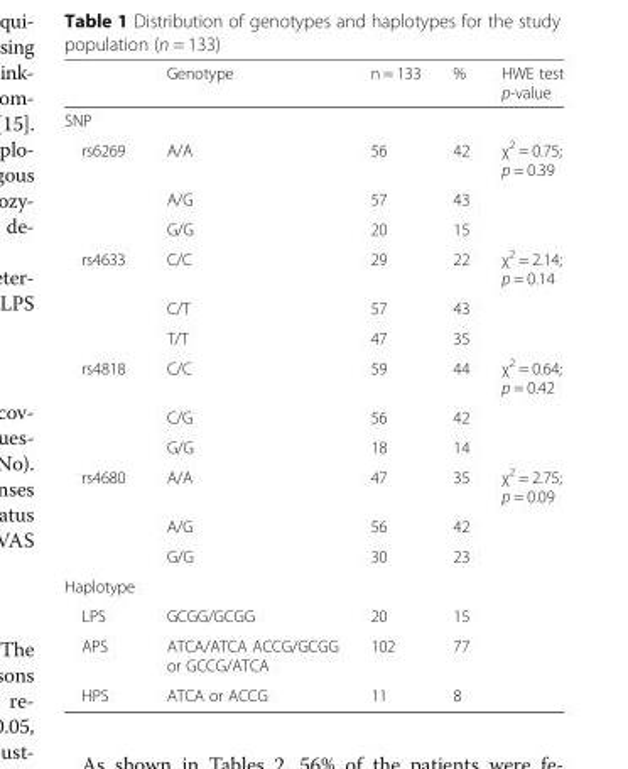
<table><thead><tr><td></td><td>Genotype</td><td>n = 133</td><td>%</td><td>HWE test p-value</td></tr></thead><tbody><tr><td colspan="5">SNP</td></tr><tr><td rowspan="3">rs6269</td><td>A/A</td><td>56</td><td>42</td><td>χ<sup>2</sup> = 0.75; p = 0.39</td></tr><tr><td>A/G</td><td>57</td><td>43</td><td></td></tr><tr><td>G/G</td><td>20</td><td>15</td><td></td></tr><tr><td rowspan="3">rs4633</td><td>C/C</td><td>29</td><td>22</td><td>χ<sup>2</sup> = 2.14; p = 0.14</td></tr><tr><td>C/T</td><td>57</td><td>43</td><td></td></tr><tr><td>T/T</td><td>47</td><td>35</td><td></td></tr><tr><td rowspan="3">rs4818</td><td>C/C</td><td>59</td><td>44</td><td>χ<sup>2</sup> = 0.64; p = 0.42</td></tr><tr><td>C/G</td><td>56</td><td>42</td><td></td></tr><tr><td>G/G</td><td>18</td><td>14</td><td></td></tr><tr><td rowspan="3">rs4680</td><td>A/A</td><td>47</td><td>35</td><td>χ<sup>2</sup> = 2.75; p = 0.09</td></tr><tr><td>A/G</td><td>56</td><td>42</td><td></td></tr><tr><td>G/G</td><td>30</td><td>23</td><td></td></tr><tr><td colspan="5">Haplotype</td></tr><tr><td>LPS</td><td>GCGG/GCGG</td><td>20</td><td>15</td><td></td></tr><tr><td>APS</td><td>ATCA/ATCA ACCG/GCGG or GCCG/ATCA</td><td>102</td><td>77</td><td></td></tr><tr><td>HPS</td><td>ATCA or ACCG</td><td>11</td><td>8</td><td></td></tr></tbody></table>